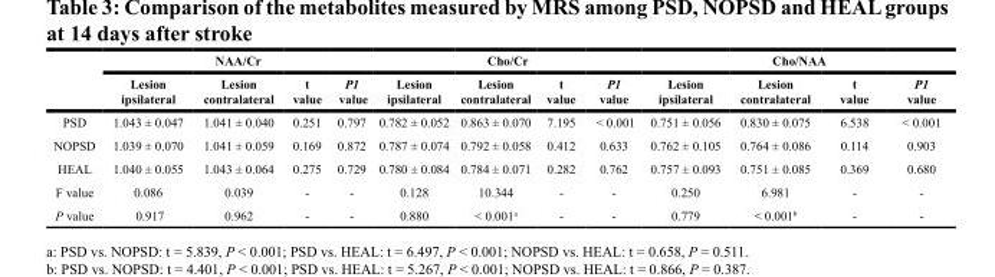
<table><thead><tr><td rowspan="2"></td><td colspan="4">NAA/Cr</td><td colspan="4">Cho/Cr</td><td colspan="4">Cho/NAA</td></tr><tr><td>Lesion ipsilateral</td><td>Lesion contralateral</td><td>t value</td><td>P1 value</td><td>Lesion ipsilateral</td><td>Lesion contralateral</td><td>t value</td><td>P1 value</td><td>Lesion ipsilateral</td><td>Lesion contralateral</td><td>t value</td><td>P1 value</td></tr></thead><tbody><tr><td>PSD</td><td>1.043 ± 0.047</td><td>1.041 ± 0.040</td><td>0.251</td><td>0.797</td><td>0.782 ± 0.052</td><td>0.863 ± 0.070</td><td>7.195</td><td>&lt; 0.001</td><td>0.751 ± 0.056</td><td>0.830 ± 0.075</td><td>6.538</td><td>&lt; 0.001</td></tr><tr><td>NOPSD</td><td>1.039 ± 0.070</td><td>1.041 ± 0.059</td><td>0.169</td><td>0.872</td><td>0.787 ± 0.074</td><td>0.792 ± 0.058</td><td>0.412</td><td>0.633</td><td>0.762 ± 0.105</td><td>0.764 ± 0.086</td><td>0.114</td><td>0.903</td></tr><tr><td>HEAL</td><td>1.040 ± 0.055</td><td>1.043 ± 0.064</td><td>0.275</td><td>0.729</td><td>0.780 ± 0.084</td><td>0.784 ± 0.071</td><td>0.282</td><td>0.762</td><td>0.757 ± 0.093</td><td>0.751 ± 0.085</td><td>0.369</td><td>0.680</td></tr><tr><td>F value</td><td>0.086</td><td>0.039</td><td>-</td><td>-</td><td>0.128</td><td>10.344</td><td>-</td><td>-</td><td>0.250</td><td>6.981</td><td>-</td><td>-</td></tr><tr><td>P value</td><td>0.917</td><td>0.962</td><td>-</td><td>-</td><td>0.880</td><td>&lt; 0.001<sup>a</sup></td><td>-</td><td>-</td><td>0.779</td><td>&lt; 0.001<sup>b</sup></td><td>-</td><td>-</td></tr></tbody></table>